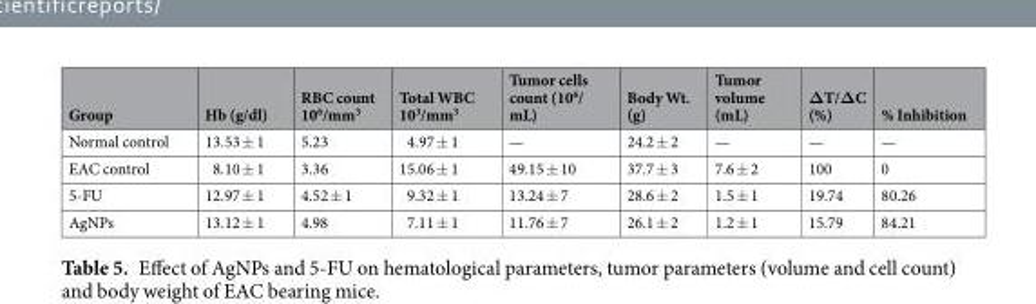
<table><thead><tr><td>Group</td><td>Hb (g/dl)</td><td>RBC count 10<sup>6</sup>/mm<sup>3</sup></td><td>Total WBC 10<sup>3</sup>/mm<sup>3</sup></td><td>Tumor cells count (10<sup>6</sup>/ mL)</td><td>Body Wt. (g)</td><td>Tumor volume (mL)</td><td>ΔT/ΔC (%)</td><td>% Inhibition</td></tr></thead><tbody><tr><td>Normal control</td><td>13.53 ± 1</td><td>5.23</td><td>4.97 ± 1</td><td>—</td><td>24.2 ± 2</td><td>—</td><td>—</td><td>—</td></tr><tr><td>EAC control</td><td>8.10 ± 1</td><td>3.36</td><td>15.06 ± 1</td><td>49.15 ± 10</td><td>37.7 ± 3</td><td>7.6 ± 2</td><td>100</td><td>0</td></tr><tr><td>5-FU</td><td>12.97 ± 1</td><td>4.52 ± 1</td><td>9.32 ± 1</td><td>13.24 ± 7</td><td>28.6 ± 2</td><td>1.5 ± 1</td><td>19.74</td><td>80.26</td></tr><tr><td>AgNPs</td><td>13.12 ± 1</td><td>4.98</td><td>7.11 ± 1</td><td>11.76 ± 7</td><td>26.1 ± 2</td><td>1.2 ± 1</td><td>15.79</td><td>84.21</td></tr></tbody></table>